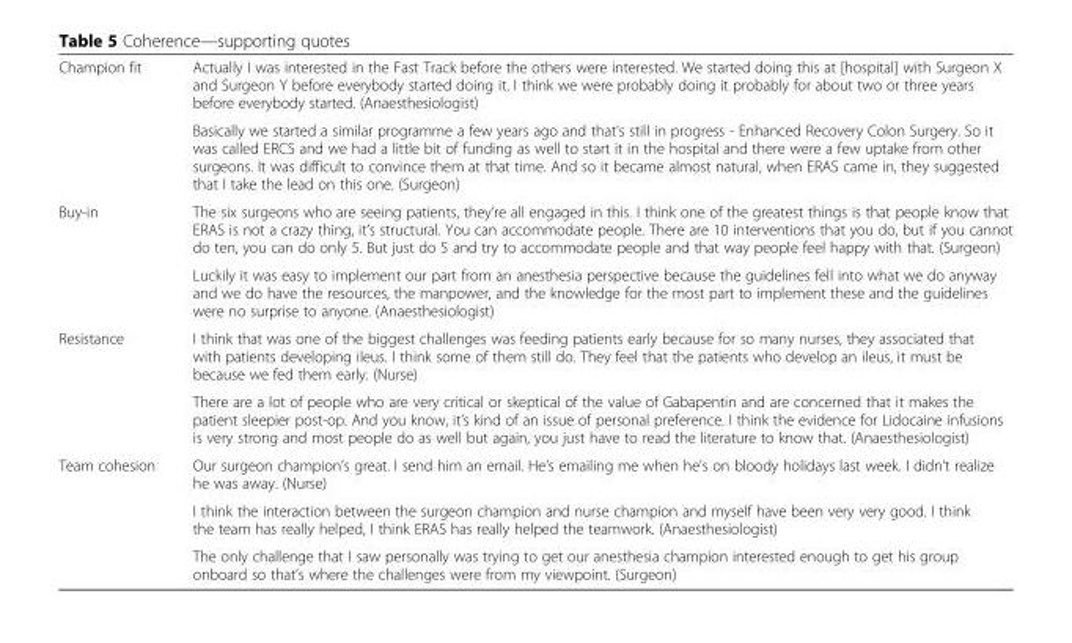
<table><tbody><tr><td rowspan="2">Champion fit</td><td>Actually I was interested in the Fast Track before the others were interested. We started doing this at [hospital] with Surgeon X and Surgeon Y before everybody started doing it. I think we were probably doing it probably for about two or three years before everybody started. (Anaesthesiologist)</td></tr><tr><td>Basically we started a similar programme a few years ago and that’s still in progress - Enhanced Recovery Colon Surgery. So it was called ERCS and we had a little bit of funding as well to start it in the hospital and there were a few uptake from other surgeons. It was difficult to convince them at that time. And so it became almost natural, when ERAS came in, they suggested that I take the lead on this one. (Surgeon)</td></tr><tr><td rowspan="2">Buy-in</td><td>The six surgeons who are seeing patients, they’re all engaged in this. I think one of the greatest things is that people know that ERAS is not a crazy thing, it’s structural. You can accommodate people. There are 10 interventions that you do, but if you cannot do ten, you can do only 5. But just do 5 and try to accommodate people and that way people feel happy with that. (Surgeon)</td></tr><tr><td>Luckily it was easy to implement our part from an anesthesia perspective because the guidelines fell into what we do anyway and we do have the resources, the manpower, and the knowledge for the most part to implement these and the guidelines were no surprise to anyone. (Anaesthesiologist)</td></tr><tr><td rowspan="2">Resistance</td><td>I think that was one of the biggest challenges was feeding patients early because for so many nurses, they associated that with patients developing ileus. I think some of them still do. They feel that the patients who develop an ileus, it must be because we fed them early. (Nurse)</td></tr><tr><td>There are a lot of people who are very critical or skeptical of the value of Gabapentin and are concerned that it makes the patient sleepier post-op. And you know, it’s kind of an issue of personal preference. I think the evidence for Lidocaine infusions is very strong and most people do as well but again, you just have to read the literature to know that. (Anaesthesiologist)</td></tr><tr><td rowspan="3">Team cohesion</td><td>Our surgeon champion’s great. I send him an email. He’s emailing me when he&#x27;s on bloody holidays last week. I didn’t realize he was away. (Nurse)</td></tr><tr><td>I think the interaction between the surgeon champion and nurse champion and myself have been very very good. I think the team has really helped, I think ERAS has really helped the teamwork. (Anaesthesiologist)</td></tr><tr><td>The only challenge that I saw personally was trying to get our anesthesia champion interested enough to get his group onboard so that’s where the challenges were from my viewpoint. (Surgeon)</td></tr></tbody></table>